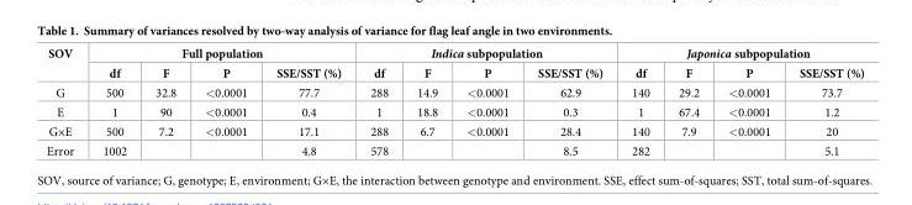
<table><thead><tr><td rowspan="2">SOV</td><td colspan="4">Full population</td><td colspan="4">Indica subpopulation</td><td colspan="4">Japonica subpopulation</td></tr><tr><td>df</td><td>F</td><td>P</td><td>SSE/SST (%)</td><td>df</td><td>F</td><td>P</td><td>SSE/SST (%)</td><td>df</td><td>F</td><td>P</td><td>SSE/SST (%)</td></tr></thead><tbody><tr><td>G</td><td>500</td><td>32.8</td><td>&lt;0.0001</td><td>77.7</td><td>288</td><td>14.9</td><td>&lt;0.0001</td><td>62.9</td><td>140</td><td>29.2</td><td>&lt;0.0001</td><td>73.7</td></tr><tr><td>E</td><td>1</td><td>90</td><td>&lt;0.0001</td><td>0.4</td><td>1</td><td>18.8</td><td>&lt;0.0001</td><td>0.3</td><td>1</td><td>67.4</td><td>&lt;0.0001</td><td>1.2</td></tr><tr><td>G×E</td><td>500</td><td>7.2</td><td>&lt;0.0001</td><td>17.1</td><td>288</td><td>6.7</td><td>&lt;0.0001</td><td>28.4</td><td>140</td><td>7.9</td><td>&lt;0.0001</td><td>20</td></tr><tr><td>Error</td><td>1002</td><td></td><td></td><td>4.8</td><td>578</td><td></td><td></td><td>8.5</td><td>282</td><td></td><td></td><td>5.1</td></tr></tbody></table>